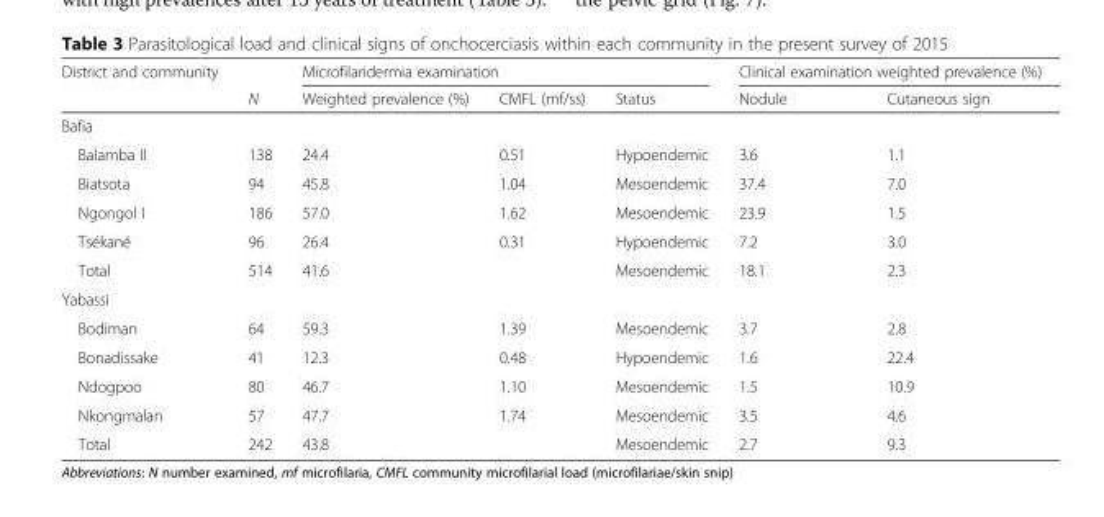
<table><thead><tr><td rowspan="2">District and community</td><td rowspan="2">N</td><td colspan="3">Microfilaridermia examination</td><td colspan="2">Clinical examination weighted prevalence (%)</td></tr><tr><td>Weighted prevalence (%)</td><td>CMFL (mf/ss)</td><td>Status</td><td>Nodule</td><td>Cutaneous sign</td></tr></thead><tbody><tr><td colspan="7">Bafia</td></tr><tr><td>Balamba II</td><td>138</td><td>24.4</td><td>0.51</td><td>Hypoendemic</td><td>3.6</td><td>1.1</td></tr><tr><td>Biatsota</td><td>94</td><td>45.8</td><td>1.04</td><td>Mesoendemic</td><td>37.4</td><td>7.0</td></tr><tr><td>Ngongol I</td><td>186</td><td>57.0</td><td>1.62</td><td>Mesoendemic</td><td>23.9</td><td>1.5</td></tr><tr><td>Tsékané</td><td>96</td><td>26.4</td><td>0.31</td><td>Hypoendemic</td><td>7.2</td><td>3.0</td></tr><tr><td>Total</td><td>514</td><td>41.6</td><td></td><td>Mesoendemic</td><td>18.1</td><td>2.3</td></tr><tr><td colspan="7">Yabassi</td></tr><tr><td>Bodiman</td><td>64</td><td>59.3</td><td>1.39</td><td>Mesoendemic</td><td>3.7</td><td>2.8</td></tr><tr><td>Bonadissake</td><td>41</td><td>12.3</td><td>0.48</td><td>Hypoendemic</td><td>1.6</td><td>22.4</td></tr><tr><td>Ndogpoo</td><td>80</td><td>46.7</td><td>1.10</td><td>Mesoendemic</td><td>1.5</td><td>10.9</td></tr><tr><td>Nkongmalan</td><td>57</td><td>47.7</td><td>1.74</td><td>Mesoendemic</td><td>3.5</td><td>4.6</td></tr><tr><td>Total</td><td>242</td><td>43.8</td><td></td><td>Mesoendemic</td><td>2.7</td><td>9.3</td></tr></tbody></table>